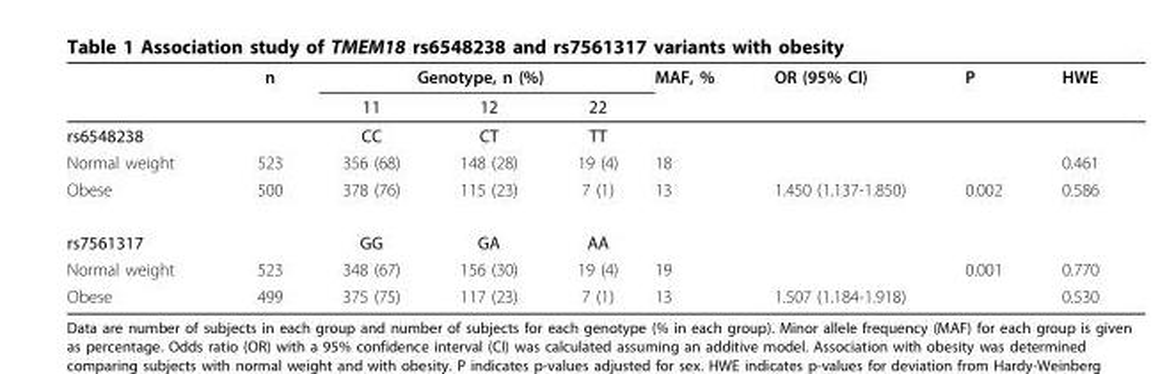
<table><thead><tr><td rowspan="2"></td><td rowspan="2">n</td><td colspan="3">Genotype, n (%)</td><td rowspan="2">MAF, %</td><td rowspan="2">OR (95% CI)</td><td rowspan="2">P</td><td rowspan="2">HWE</td></tr><tr><td>11</td><td>12</td><td>22</td></tr></thead><tbody><tr><td>rs6548238</td><td></td><td>CC</td><td>CT</td><td>TT</td><td></td><td></td><td></td><td></td></tr><tr><td>Normal weight</td><td>523</td><td>356 (68)</td><td>148 (28)</td><td>19 (4)</td><td>18</td><td></td><td></td><td>0.461</td></tr><tr><td>Obese</td><td>500</td><td>378 (76)</td><td>115 (23)</td><td>7 (1)</td><td>13</td><td>1.450 (1.137-1.850)</td><td>0.002</td><td>0.586</td></tr><tr><td>rs7561317</td><td></td><td>GG</td><td>GA</td><td>AA</td><td></td><td></td><td></td><td></td></tr><tr><td>Normal weight</td><td>523</td><td>348 (67)</td><td>156 (30)</td><td>19 (4)</td><td>19</td><td></td><td>0.001</td><td>0.770</td></tr><tr><td>Obese</td><td>499</td><td>375 (75)</td><td>117 (23)</td><td>7 (1)</td><td>13</td><td>1.507 (1.184-1.918)</td><td></td><td>0.530</td></tr></tbody></table>